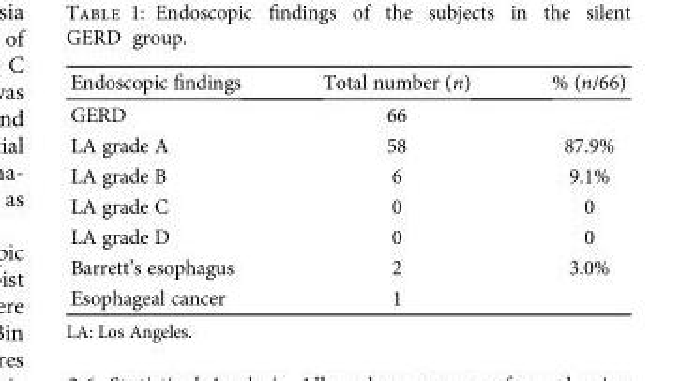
<table><thead><tr><td>Endoscopic findings</td><td>Total number (n)</td><td>% (n/66)</td></tr></thead><tbody><tr><td>GERD</td><td>66</td><td></td></tr><tr><td>LA grade A</td><td>58</td><td>87.9%</td></tr><tr><td>LA grade B</td><td>6</td><td>9.1%</td></tr><tr><td>LA grade C</td><td>0</td><td>0</td></tr><tr><td>LA grade D</td><td>0</td><td>0</td></tr><tr><td>Barrett’s esophagus</td><td>2</td><td>3.0%</td></tr><tr><td>Esophageal cancer</td><td>1</td><td></td></tr></tbody></table>